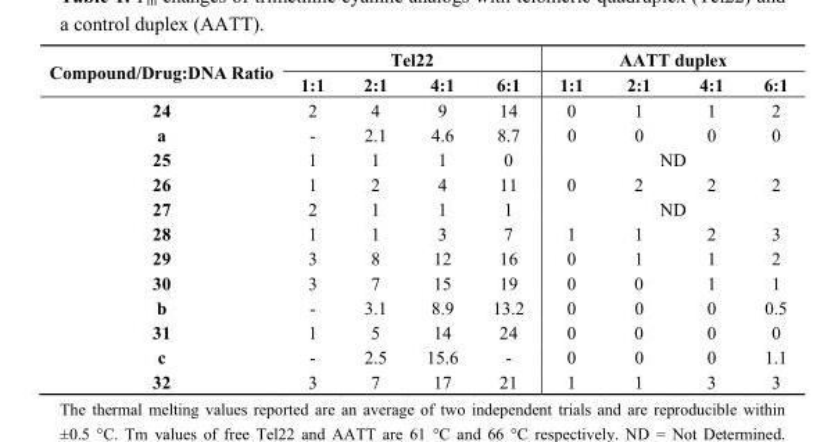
<table><thead><tr><td rowspan="2">Compound/Drug:DNA Ratio</td><td colspan="4">Tel22</td><td colspan="4">AATT duplex</td></tr><tr><td>1:1</td><td>2:1</td><td>4:1</td><td>6:1</td><td>1:1</td><td>2:1</td><td>4:1</td><td>6:1</td></tr></thead><tbody><tr><td>24</td><td>2</td><td>4</td><td>9</td><td>14</td><td>0</td><td>1</td><td>1</td><td>2</td></tr><tr><td>a</td><td>-</td><td>2.1</td><td>4.6</td><td>8.7</td><td>0</td><td>0</td><td>0</td><td>0</td></tr><tr><td>25</td><td>1</td><td>1</td><td>1</td><td>0</td><td colspan="4">ND</td></tr><tr><td>26</td><td>1</td><td>2</td><td>4</td><td>11</td><td>0</td><td>2</td><td>2</td><td>2</td></tr><tr><td>27</td><td>2</td><td>1</td><td>1</td><td>1</td><td colspan="4">ND</td></tr><tr><td>28</td><td>1</td><td>1</td><td>3</td><td>7</td><td>1</td><td>1</td><td>2</td><td>3</td></tr><tr><td>29</td><td>3</td><td>8</td><td>12</td><td>16</td><td>0</td><td>1</td><td>1</td><td>2</td></tr><tr><td>30</td><td>3</td><td>7</td><td>15</td><td>19</td><td>0</td><td>0</td><td>1</td><td>1</td></tr><tr><td>b</td><td>-</td><td>3.1</td><td>8.9</td><td>13.2</td><td>0</td><td>0</td><td>0</td><td>0.5</td></tr><tr><td>31</td><td>1</td><td>5</td><td>14</td><td>24</td><td>0</td><td>0</td><td>0</td><td>0</td></tr><tr><td>c</td><td>-</td><td>2.5</td><td>15.6</td><td>-</td><td>0</td><td>0</td><td>0</td><td>1.1</td></tr><tr><td>32</td><td>3</td><td>7</td><td>17</td><td>21</td><td>1</td><td>1</td><td>3</td><td>3</td></tr></tbody></table>